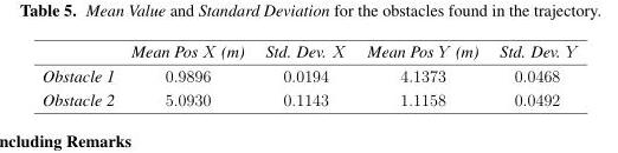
<table><thead><tr><td></td><td>Mean Pos X (m)</td><td>Std. Dev. X</td><td>Mean Pos Y (m)</td><td>Std. Dev. Y</td></tr></thead><tbody><tr><td>Obstacle 1</td><td>0.9896</td><td>0.0194</td><td>4.1373</td><td>0.0468</td></tr><tr><td>Obstacle 2</td><td>5.0930</td><td>0.1143</td><td>1.1158</td><td>0.0492</td></tr></tbody></table>